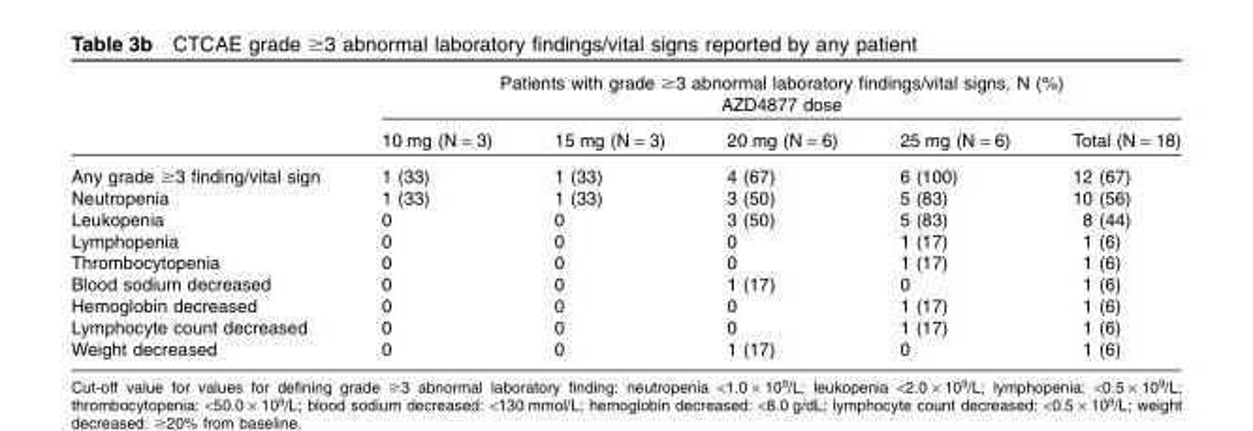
<table><thead><tr><td rowspan="3"></td><td rowspan="2" colspan="5">Patients with grade ≥3 abnormal laboratory findings/vital signs, N (%) AZD4877 dose</td></tr><tr></tr><tr><td>10 mg (N = 3)</td><td>15 mg (N = 3)</td><td>20 mg (N = 6)</td><td>25 mg (N = 6)</td><td>Total (N = 18)</td></tr></thead><tbody><tr><td>Any grade ≥3 finding/vital sign</td><td>1 (33)</td><td>1 (33)</td><td>4 (67)</td><td>6 (100)</td><td>12 (67)</td></tr><tr><td>Neutropenia</td><td>1 (33)</td><td>1 (33)</td><td>3 (50)</td><td>5 (83)</td><td>10 (56)</td></tr><tr><td>Leukopenia</td><td>0</td><td>0</td><td>3 (50)</td><td>5 (83)</td><td>8 (44)</td></tr><tr><td>Lymphopenia</td><td>0</td><td>0</td><td>0</td><td>1 (17)</td><td>1 (6)</td></tr><tr><td>Thrombocytopenia</td><td>0</td><td>0</td><td>0</td><td>1 (17)</td><td>1 (6)</td></tr><tr><td>Blood sodium decreased</td><td>0</td><td>0</td><td>1 (17)</td><td>0</td><td>1 (6)</td></tr><tr><td>Hemoglobin decreased</td><td>0</td><td>0</td><td>0</td><td>1 (17)</td><td>1 (6)</td></tr><tr><td>Lymphocyte count decreased</td><td>0</td><td>0</td><td>0</td><td>1 (17)</td><td>1 (6)</td></tr><tr><td>Weight decreased</td><td>0</td><td>0</td><td>1 (17)</td><td>0</td><td>1 (6)</td></tr></tbody></table>